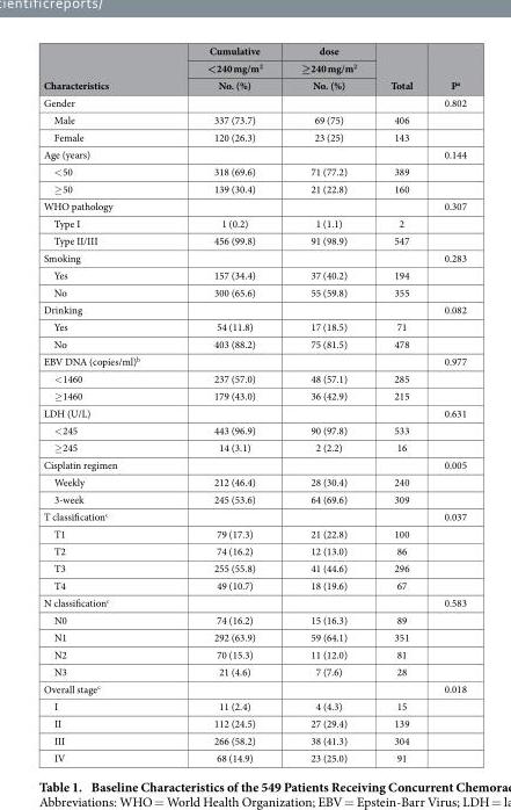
<table><thead><tr><td rowspan="3">Characteristics</td><td rowspan="3">Cumulative &lt;240 mg/m<sup>2</sup> No. (%)</td><td rowspan="3">dose ≥240 mg/m<sup>2</sup> No. (%)</td><td rowspan="3">Total</td><td rowspan="3">P<sup>a</sup></td></tr><tr></tr><tr></tr></thead><tbody><tr><td>Gender</td><td></td><td></td><td></td><td>0.802</td></tr><tr><td>Male</td><td>337 (73.7)</td><td>69 (75)</td><td>406</td><td></td></tr><tr><td>Female</td><td>120 (26.3)</td><td>23 (25)</td><td>143</td><td></td></tr><tr><td>Age (years)</td><td></td><td></td><td></td><td>0.144</td></tr><tr><td>&lt; 50</td><td>318 (69.6)</td><td>71 (77.2)</td><td>389</td><td></td></tr><tr><td>≥ 50</td><td>139 (30.4)</td><td>21 (22.8)</td><td>160</td><td></td></tr><tr><td>WHO pathology</td><td></td><td></td><td></td><td>0.307</td></tr><tr><td>Type I</td><td>1 (0.2)</td><td>1 (1.1)</td><td>2</td><td></td></tr><tr><td>Type II/III</td><td>456 (99.8)</td><td>91 (98.9)</td><td>547</td><td></td></tr><tr><td>Smoking</td><td></td><td></td><td></td><td>0.283</td></tr><tr><td>Yes</td><td>157 (34.4)</td><td>37 (40.2)</td><td>194</td><td></td></tr><tr><td>No</td><td>300 (65.6)</td><td>55 (59.8)</td><td>355</td><td></td></tr><tr><td>Drinking</td><td></td><td></td><td></td><td>0.082</td></tr><tr><td>Yes</td><td>54 (11.8)</td><td>17 (18.5)</td><td>71</td><td></td></tr><tr><td>No</td><td>403 (88.2)</td><td>75 (81.5)</td><td>478</td><td></td></tr><tr><td>EBV DNA (copies/ml)<sup>b</sup></td><td></td><td></td><td></td><td>0.977</td></tr><tr><td>&lt; 1460</td><td>237 (57.0)</td><td>48 (57.1)</td><td>285</td><td></td></tr><tr><td>≥ 1460</td><td>179 (43.0)</td><td>36 (42.9)</td><td>215</td><td></td></tr><tr><td>LDH (U/L)</td><td></td><td></td><td></td><td>0.631</td></tr><tr><td>&lt; 245</td><td>443 (96.9)</td><td>90 (97.8)</td><td>533</td><td></td></tr><tr><td>≥ 245</td><td>14 (3.1)</td><td>2 (2.2)</td><td>16</td><td></td></tr><tr><td>Cisplatin regimen</td><td></td><td></td><td></td><td>0.005</td></tr><tr><td>Weekly</td><td>212 (46.4)</td><td>28 (30.4)</td><td>240</td><td></td></tr><tr><td>3-week</td><td>245 (53.6)</td><td>64 (69.6)</td><td>309</td><td></td></tr><tr><td>T classification<sup>c</sup></td><td></td><td></td><td></td><td>0.037</td></tr><tr><td>T1</td><td>79 (17.3)</td><td>21 (22.8)</td><td>100</td><td></td></tr><tr><td>T2</td><td>74 (16.2)</td><td>12 (13.0)</td><td>86</td><td></td></tr><tr><td>T3</td><td>255 (55.8)</td><td>41 (44.6)</td><td>296</td><td></td></tr><tr><td>T4</td><td>49 (10.7)</td><td>18 (19.6)</td><td>67</td><td></td></tr><tr><td>N classification<sup>c</sup></td><td></td><td></td><td></td><td>0.583</td></tr><tr><td>N0</td><td>74 (16.2)</td><td>15 (16.3)</td><td>89</td><td></td></tr><tr><td>N1</td><td>292 (63.9)</td><td>59 (64.1)</td><td>351</td><td></td></tr><tr><td>N2</td><td>70 (15.3)</td><td>11 (12.0)</td><td>81</td><td></td></tr><tr><td>N3</td><td>21 (4.6)</td><td>7 (7.6)</td><td>28</td><td></td></tr><tr><td>Overall stage<sup>c</sup></td><td></td><td></td><td></td><td>0.018</td></tr><tr><td>I</td><td>11 (2.4)</td><td>4 (4.3)</td><td>15</td><td></td></tr><tr><td>II</td><td>112 (24.5)</td><td>27 (29.4)</td><td>139</td><td></td></tr><tr><td>III</td><td>266 (58.2)</td><td>38 (41.3)</td><td>304</td><td></td></tr><tr><td>IV</td><td>68 (14.9)</td><td>23 (25.0)</td><td>91</td><td></td></tr></tbody></table>